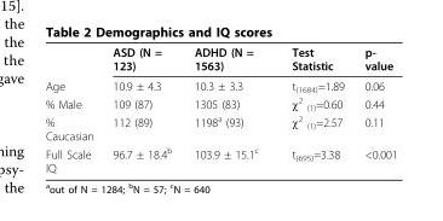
<table><thead><tr><td></td><td>ASD (N = 123)</td><td>ADHD (N = 1563)</td><td>Test Statistic</td><td>p- value</td></tr></thead><tbody><tr><td>Age</td><td>10.9 ± 4.3</td><td>10.3 ± 3.3</td><td>t<sub>(1684)</sub>=1.89</td><td>0.06</td></tr><tr><td>% Male</td><td>109 (87)</td><td>1305 (83)</td><td>χ<sup>2</sup> <sub>(1)</sub>=0.60</td><td>0.44</td></tr><tr><td>% Caucasian</td><td>112 (89)</td><td>1198<sup>a</sup> (93)</td><td>χ<sup>2</sup> <sub>(1)</sub>=2.57</td><td>0.11</td></tr><tr><td>Full Scale IQ</td><td>96.7 ± 18.4<sup>b</sup></td><td>103.9 ± 15.1<sup>c</sup></td><td>t<sub>(695)</sub>=3.38</td><td>&lt;0.001</td></tr></tbody></table>